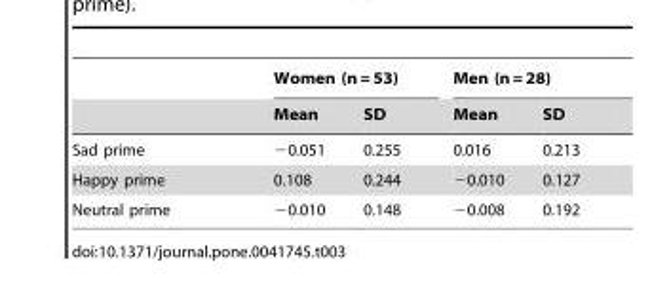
<table><thead><tr><td rowspan="2"></td><td colspan="2">Women (n = 53)</td><td colspan="2">Men (n = 28)</td></tr><tr><td>Mean</td><td>SD</td><td>Mean</td><td>SD</td></tr></thead><tbody><tr><td>Sad prime</td><td>−0.051</td><td>0.255</td><td>0.016</td><td>0.213</td></tr><tr><td>Happy prime</td><td>0.108</td><td>0.244</td><td>−0.010</td><td>0.127</td></tr><tr><td>Neutral prime</td><td>−0.010</td><td>0.148</td><td>−0.008</td><td>0.192</td></tr></tbody></table>